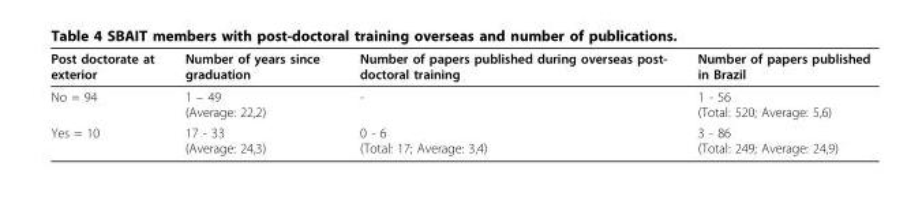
<table><thead><tr><td>Post doctorate at exterior</td><td>Number of years since graduation</td><td>Number of papers published during overseas post- doctoral training</td><td>Number of papers published in Brazil</td></tr></thead><tbody><tr><td>No = 94</td><td>1 – 49 (Average: 22,2)</td><td>-</td><td>1 - 56 (Total: 520; Average: 5,6)</td></tr><tr><td>Yes = 10</td><td>17 - 33 (Average: 24,3)</td><td>0 - 6 (Total: 17; Average: 3,4)</td><td>3 - 86 (Total: 249; Average: 24,9)</td></tr></tbody></table>